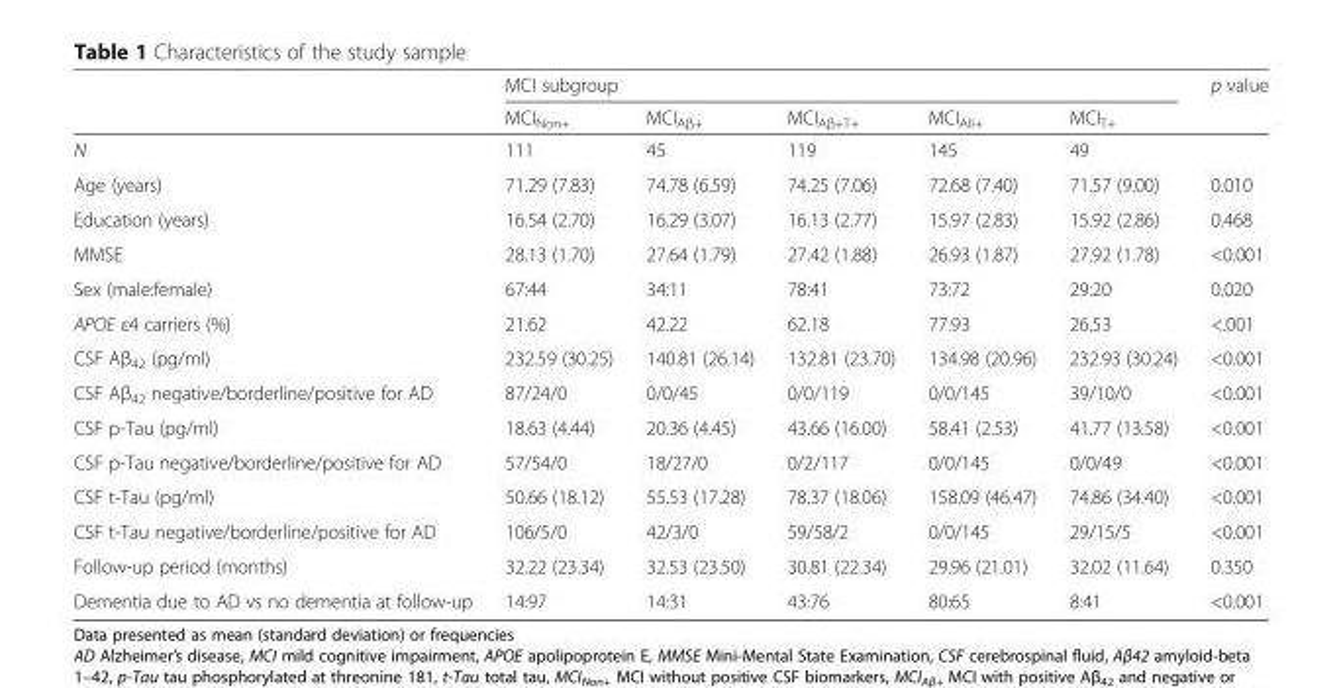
<table><thead><tr><td rowspan="2"></td><td colspan="5">MCI subgroup</td><td rowspan="2">p value</td></tr><tr><td>MCI<sub>Non+</sub></td><td>MCI<sub>Aβ+</sub></td><td>MCI<sub>Aβ+T+</sub></td><td>MCI<sub>All+</sub></td><td>MCI<sub>T+</sub></td></tr></thead><tbody><tr><td>N</td><td>111</td><td>45</td><td>119</td><td>145</td><td>49</td><td></td></tr><tr><td>Age (years)</td><td>71.29 (7.83)</td><td>74.78 (6.59)</td><td>74.25 (7.06)</td><td>72.68 (7.40)</td><td>71.57 (9.00)</td><td>0.010</td></tr><tr><td>Education (years)</td><td>16.54 (2.70)</td><td>16.29 (3.07)</td><td>16.13 (2.77)</td><td>15.97 (2.83)</td><td>15.92 (2.86)</td><td>0.468</td></tr><tr><td>MMSE</td><td>28.13 (1.70)</td><td>27.64 (1.79)</td><td>27.42 (1.88)</td><td>26.93 (1.87)</td><td>27.92 (1.78)</td><td>&lt;0.001</td></tr><tr><td>Sex (male:female)</td><td>67:44</td><td>34:11</td><td>78:41</td><td>73:72</td><td>29:20</td><td>0.020</td></tr><tr><td>APOE ε4 carriers (%)</td><td>21.62</td><td>42.22</td><td>62.18</td><td>77.93</td><td>26.53</td><td>&lt;.001</td></tr><tr><td>CSF Aβ<sub>42</sub> (pg/ml)</td><td>232.59 (30.25)</td><td>140.81 (26.14)</td><td>132.81 (23.70)</td><td>134.98 (20.96)</td><td>232.93 (30.24)</td><td>&lt;0.001</td></tr><tr><td>CSF Aβ<sub>42</sub> negative/borderline/positive for AD</td><td>87/24/0</td><td>0/0/45</td><td>0/0/119</td><td>0/0/145</td><td>39/10/0</td><td>&lt;0.001</td></tr><tr><td>CSF p-Tau (pg/ml)</td><td>18.63 (4.44)</td><td>20.36 (4.45)</td><td>43.66 (16.00)</td><td>58.41 (2.53)</td><td>41.77 (13.58)</td><td>&lt;0.001</td></tr><tr><td>CSF p-Tau negative/borderline/positive for AD</td><td>57/54/0</td><td>18/27/0</td><td>0/2/117</td><td>0/0/145</td><td>0/0/49</td><td>&lt;0.001</td></tr><tr><td>CSF t-Tau (pg/ml)</td><td>50.66 (18.12)</td><td>55.53 (17.28)</td><td>78.37 (18.06)</td><td>158.09 (46.47)</td><td>74.86 (34.40)</td><td>&lt;0.001</td></tr><tr><td>CSF t-Tau negative/borderline/positive for AD</td><td>106/5/0</td><td>42/3/0</td><td>59/58/2</td><td>0/0/145</td><td>29/15/5</td><td>&lt;0.001</td></tr><tr><td>Follow-up period (months)</td><td>32.22 (23.34)</td><td>32.53 (23.50)</td><td>30.81 (22.34)</td><td>29.96 (21.01)</td><td>32.02 (11.64)</td><td>0.350</td></tr><tr><td>Dementia due to AD vs no dementia at follow-up</td><td>14:97</td><td>14:31</td><td>43:76</td><td>80:65</td><td>8:41</td><td>&lt;0.001</td></tr></tbody></table>